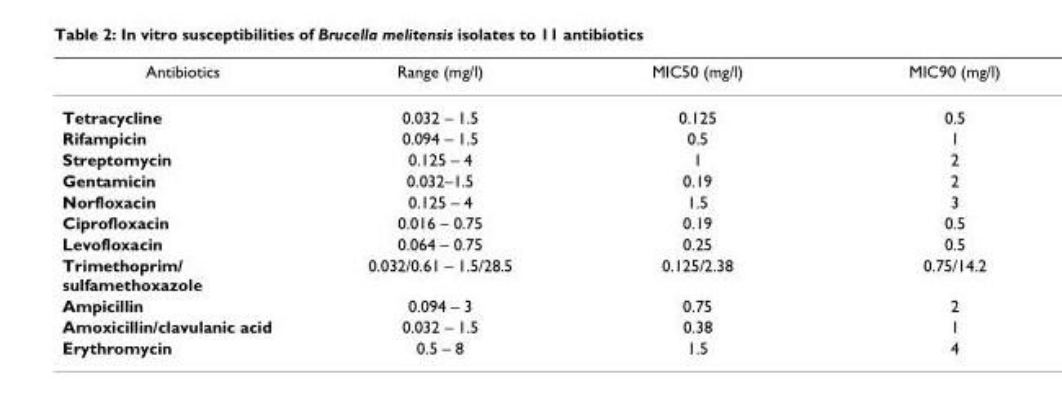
<table><thead><tr><td>Antibiotics</td><td>Range (mg/l)</td><td>MIC50 (mg/l)</td><td>MIC90 (mg/l)</td></tr></thead><tbody><tr><td>Tetracycline</td><td>0.032 – 1.5</td><td>0.125</td><td>0.5</td></tr><tr><td>Rifampicin</td><td>0.094 – 1.5</td><td>0.5</td><td>1</td></tr><tr><td>Streptomycin</td><td>0.125 – 4</td><td>1</td><td>2</td></tr><tr><td>Gentamicin</td><td>0.032–1.5</td><td>0.19</td><td>2</td></tr><tr><td>Norfloxacin</td><td>0.125 – 4</td><td>1.5</td><td>3</td></tr><tr><td>Ciprofloxacin</td><td>0.016 – 0.75</td><td>0.19</td><td>0.5</td></tr><tr><td>Levofloxacin</td><td>0.064 – 0.75</td><td>0.25</td><td>0.5</td></tr><tr><td>Trimethoprim/ sulfamethoxazole</td><td>0.032/0.61 – 1.5/28.5</td><td>0.125/2.38</td><td>0.75/14.2</td></tr><tr><td>Ampicillin</td><td>0.094 – 3</td><td>0.75</td><td>2</td></tr><tr><td>Amoxicillin/clavulanic acid</td><td>0.032 – 1.5</td><td>0.38</td><td>1</td></tr><tr><td>Erythromycin</td><td>0.5 – 8</td><td>1.5</td><td>4</td></tr></tbody></table>